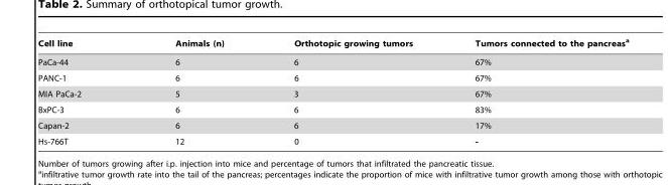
<table><thead><tr><td>Cell line</td><td>Animals (n)</td><td>Orthotopic growing tumors</td><td>Tumors connected to the pancreas<sup>a</sup></td></tr></thead><tbody><tr><td>PaCa-44</td><td>6</td><td>6</td><td>67%</td></tr><tr><td>PANC-1</td><td>6</td><td>6</td><td>67%</td></tr><tr><td>MIA PaCa-2</td><td>5</td><td>3</td><td>67%</td></tr><tr><td>BxPC-3</td><td>6</td><td>6</td><td>83%</td></tr><tr><td>Capan-2</td><td>6</td><td>6</td><td>17%</td></tr><tr><td>Hs-766T</td><td>12</td><td>0</td><td>-</td></tr></tbody></table>